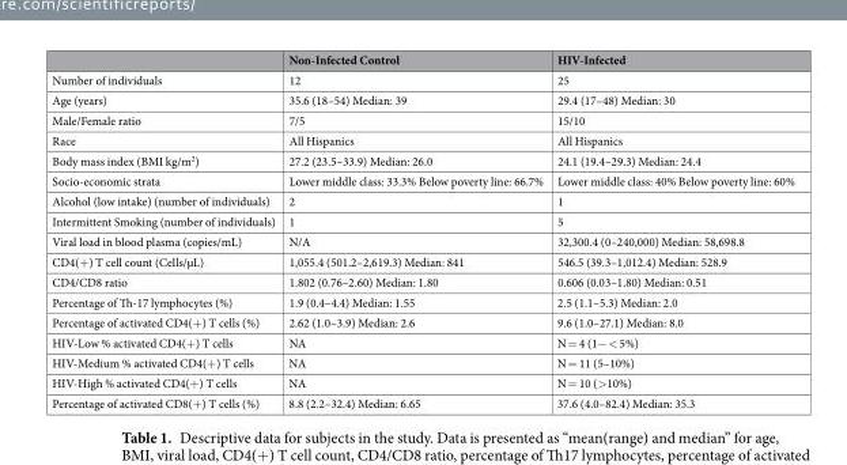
<table><thead><tr><td></td><td>Non-Infected Control</td><td>HIV-Infected</td></tr></thead><tbody><tr><td>Number of individuals</td><td>12</td><td>25</td></tr><tr><td>Age (years)</td><td>35.6 (18–54) Median: 39</td><td>29.4 (17–48) Median: 30</td></tr><tr><td>Male/Female ratio</td><td>7/5</td><td>15/10</td></tr><tr><td>Race</td><td>All Hispanics</td><td>All Hispanics</td></tr><tr><td>Body mass index (BMI kg/m<sup>2</sup>)</td><td>27.2 (23.5–33.9) Median: 26.0</td><td>24.1 (19.4–29.3) Median: 24.4</td></tr><tr><td>Socio-economic strata</td><td>Lower middle class: 33.3% Below poverty line: 66.7%</td><td>Lower middle class: 40% Below poverty line: 60%</td></tr><tr><td>Alcohol (low intake) (number of individuals)</td><td>2</td><td>1</td></tr><tr><td>Intermittent Smoking (number of individuals)</td><td>1</td><td>5</td></tr><tr><td>Viral load in blood plasma (copies/mL)</td><td>N/A</td><td>32,300.4 (0–240,000) Median: 58,698.8</td></tr><tr><td>CD4(+) T cell count (Cells/µL)</td><td>1,055.4 (501.2–2,619.3) Median: 841</td><td>546.5 (39.3–1,012.4) Median: 528.9</td></tr><tr><td>CD4/CD8 ratio</td><td>1.802 (0.76–2.60) Median: 1.80</td><td>0.606 (0.03–1.80) Median: 0.51</td></tr><tr><td>Percentage of Th-17 lymphocytes (%)</td><td>1.9 (0.4–4.4) Median: 1.55</td><td>2.5 (1.1–5.3) Median: 2.0</td></tr><tr><td>Percentage of activated CD4(+) T cells (%)</td><td>2.62 (1.0–3.9) Median: 2.6</td><td>9.6 (1.0–27.1) Median: 8.0</td></tr><tr><td>HIV-Low % activated CD4(+) T cells</td><td>NA</td><td>N = 4 (1− &lt; 5%)</td></tr><tr><td>HIV-Medium % activated CD4(+) T cells</td><td>NA</td><td>N = 11 (5–10%)</td></tr><tr><td>HIV-High % activated CD4(+) T cells</td><td>NA</td><td>N = 10 (&gt;10%)</td></tr><tr><td>Percentage of activated CD8(+) T cells (%)</td><td>8.8 (2.2–32.4) Median: 6.65</td><td>37.6 (4.0–82.4) Median: 35.3</td></tr></tbody></table>